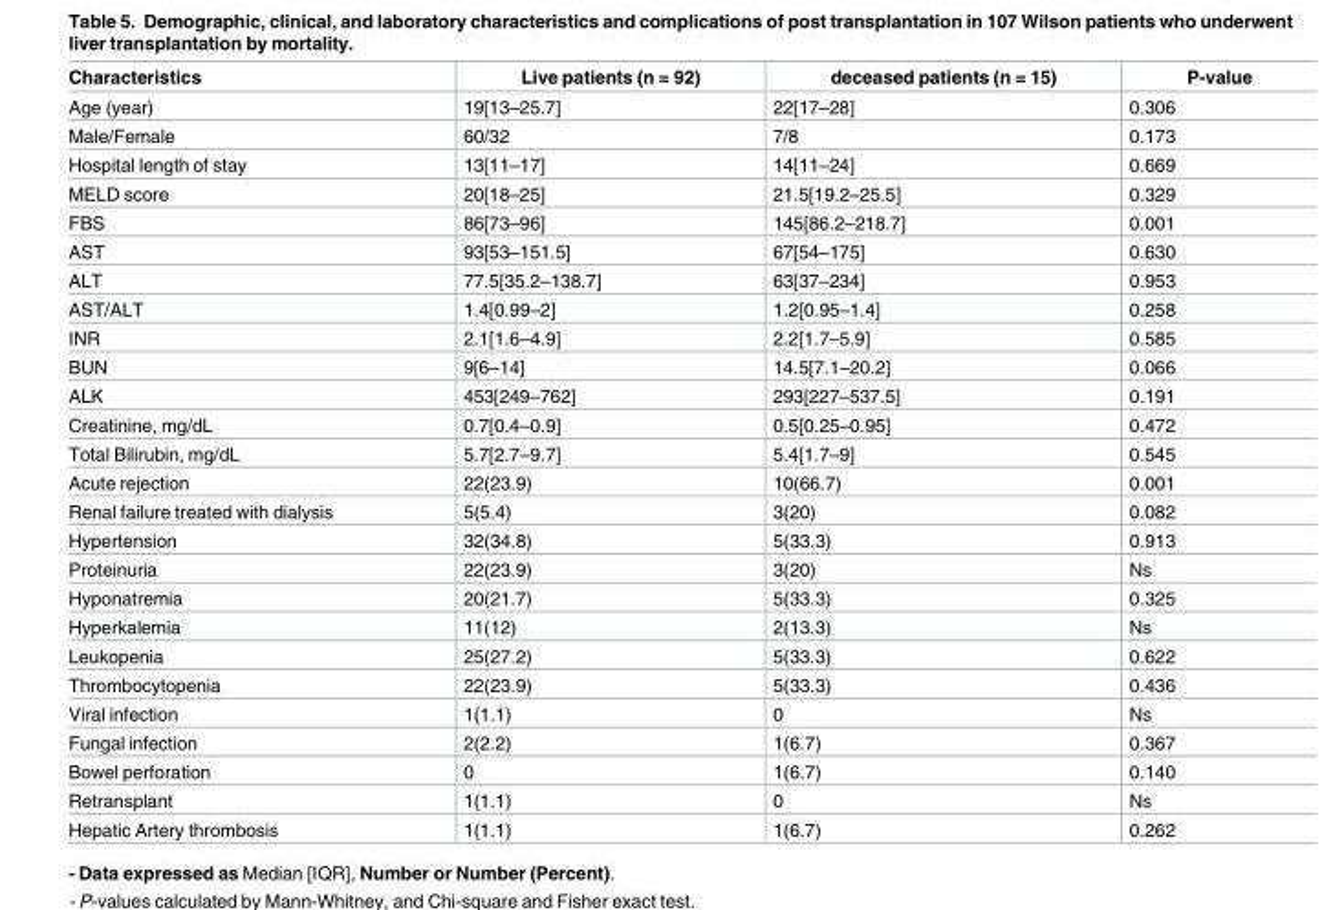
<table><thead><tr><td>Characteristics</td><td>Live patients (n = 92)</td><td>deceased patients (n = 15)</td><td>P-value</td></tr></thead><tbody><tr><td>Age (year)</td><td>19[13–25.7]</td><td>22[17–28]</td><td>0.306</td></tr><tr><td>Male/Female</td><td>60/32</td><td>7/8</td><td>0.173</td></tr><tr><td>Hospital length of stay</td><td>13[11–17]</td><td>14[11–24]</td><td>0.669</td></tr><tr><td>MELD score</td><td>20[18–25]</td><td>21.5[19.2–25.5]</td><td>0.329</td></tr><tr><td>FBS</td><td>86[73–96]</td><td>145[86.2–218.7]</td><td>0.001</td></tr><tr><td>AST</td><td>93[53–151.5]</td><td>67[54–175]</td><td>0.630</td></tr><tr><td>ALT</td><td>77.5[35.2–138.7]</td><td>63[37–234]</td><td>0.953</td></tr><tr><td>AST/ALT</td><td>1.4[0.99–2]</td><td>1.2[0.95–1.4]</td><td>0.258</td></tr><tr><td>INR</td><td>2.1[1.6–4.9]</td><td>2.2[1.7–5.9]</td><td>0.585</td></tr><tr><td>BUN</td><td>9[6–14]</td><td>14.5[7.1–20.2]</td><td>0.066</td></tr><tr><td>ALK</td><td>453[249–762]</td><td>293[227–537.5]</td><td>0.191</td></tr><tr><td>Creatinine, mg/dL</td><td>0.7[0.4–0.9]</td><td>0.5[0.25–0.95]</td><td>0.472</td></tr><tr><td>Total Bilirubin, mg/dL</td><td>5.7[2.7–9.7]</td><td>5.4[1.7–9]</td><td>0.545</td></tr><tr><td>Acute rejection</td><td>22(23.9)</td><td>10(66.7)</td><td>0.001</td></tr><tr><td>Renal failure treated with dialysis</td><td>5(5.4)</td><td>3(20)</td><td>0.082</td></tr><tr><td>Hypertension</td><td>32(34.8)</td><td>5(33.3)</td><td>0.913</td></tr><tr><td>Proteinuria</td><td>22(23.9)</td><td>3(20)</td><td>Ns</td></tr><tr><td>Hyponatremia</td><td>20(21.7)</td><td>5(33.3)</td><td>0.325</td></tr><tr><td>Hyperkalemia</td><td>11(12)</td><td>2(13.3)</td><td>Ns</td></tr><tr><td>Leukopenia</td><td>25(27.2)</td><td>5(33.3)</td><td>0.622</td></tr><tr><td>Thrombocytopenia</td><td>22(23.9)</td><td>5(33.3)</td><td>0.436</td></tr><tr><td>Viral infection</td><td>1(1.1)</td><td>0</td><td>Ns</td></tr><tr><td>Fungal infection</td><td>2(2.2)</td><td>1(6.7)</td><td>0.367</td></tr><tr><td>Bowel perforation</td><td>0</td><td>1(6.7)</td><td>0.140</td></tr><tr><td>Retransplant</td><td>1(1.1)</td><td>0</td><td>Ns</td></tr><tr><td>Hepatic Artery thrombosis</td><td>1(1.1)</td><td>1(6.7)</td><td>0.262</td></tr></tbody></table>